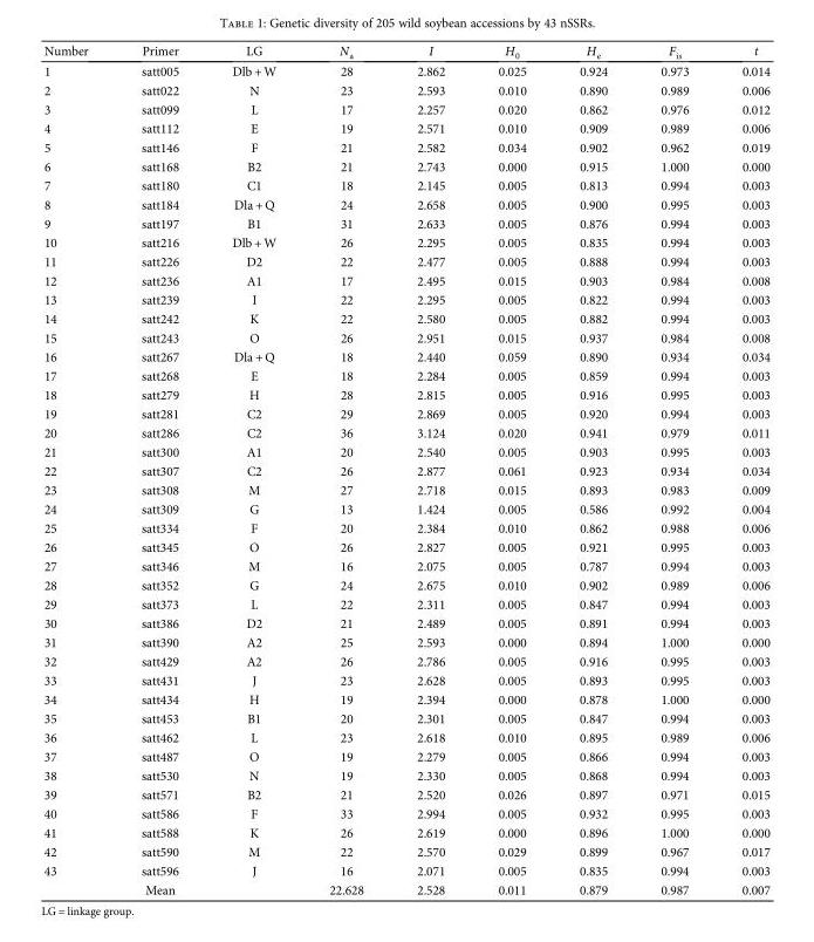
<table><thead><tr><td>Number</td><td>Primer</td><td>LG</td><td>N<sub>a</sub></td><td>I</td><td>H<sub>0</sub></td><td>H<sub>e</sub></td><td>F<sub>is</sub></td><td>t</td></tr></thead><tbody><tr><td>1</td><td>satt005</td><td>Dlb + W</td><td>28</td><td>2.862</td><td>0.025</td><td>0.924</td><td>0.973</td><td>0.014</td></tr><tr><td>2</td><td>satt022</td><td>N</td><td>23</td><td>2.593</td><td>0.010</td><td>0.890</td><td>0.989</td><td>0.006</td></tr><tr><td>3</td><td>satt099</td><td>L</td><td>17</td><td>2.257</td><td>0.020</td><td>0.862</td><td>0.976</td><td>0.012</td></tr><tr><td>4</td><td>satt112</td><td>E</td><td>19</td><td>2.571</td><td>0.010</td><td>0.909</td><td>0.989</td><td>0.006</td></tr><tr><td>5</td><td>satt146</td><td>F</td><td>21</td><td>2.582</td><td>0.034</td><td>0.902</td><td>0.962</td><td>0.019</td></tr><tr><td>6</td><td>satt168</td><td>B2</td><td>21</td><td>2.743</td><td>0.000</td><td>0.915</td><td>1.000</td><td>0.000</td></tr><tr><td>7</td><td>satt180</td><td>C1</td><td>18</td><td>2.145</td><td>0.005</td><td>0.813</td><td>0.994</td><td>0.003</td></tr><tr><td>8</td><td>satt184</td><td>Dla + Q</td><td>24</td><td>2.658</td><td>0.005</td><td>0.900</td><td>0.995</td><td>0.003</td></tr><tr><td>9</td><td>satt197</td><td>B1</td><td>31</td><td>2.633</td><td>0.005</td><td>0.876</td><td>0.994</td><td>0.003</td></tr><tr><td>10</td><td>satt216</td><td>Dlb + W</td><td>26</td><td>2.295</td><td>0.005</td><td>0.835</td><td>0.994</td><td>0.003</td></tr><tr><td>11</td><td>satt226</td><td>D2</td><td>22</td><td>2.477</td><td>0.005</td><td>0.888</td><td>0.994</td><td>0.003</td></tr><tr><td>12</td><td>satt236</td><td>A1</td><td>17</td><td>2.495</td><td>0.015</td><td>0.903</td><td>0.984</td><td>0.008</td></tr><tr><td>13</td><td>satt239</td><td>I</td><td>22</td><td>2.295</td><td>0.005</td><td>0.822</td><td>0.994</td><td>0.003</td></tr><tr><td>14</td><td>satt242</td><td>K</td><td>22</td><td>2.580</td><td>0.005</td><td>0.882</td><td>0.994</td><td>0.003</td></tr><tr><td>15</td><td>satt243</td><td>O</td><td>26</td><td>2.951</td><td>0.015</td><td>0.937</td><td>0.984</td><td>0.008</td></tr><tr><td>16</td><td>satt267</td><td>Dla + Q</td><td>18</td><td>2.440</td><td>0.059</td><td>0.890</td><td>0.934</td><td>0.034</td></tr><tr><td>17</td><td>satt268</td><td>E</td><td>18</td><td>2.284</td><td>0.005</td><td>0.859</td><td>0.994</td><td>0.003</td></tr><tr><td>18</td><td>satt279</td><td>H</td><td>28</td><td>2.815</td><td>0.005</td><td>0.916</td><td>0.995</td><td>0.003</td></tr><tr><td>19</td><td>satt281</td><td>C2</td><td>29</td><td>2.869</td><td>0.005</td><td>0.920</td><td>0.994</td><td>0.003</td></tr><tr><td>20</td><td>satt286</td><td>C2</td><td>36</td><td>3.124</td><td>0.020</td><td>0.941</td><td>0.979</td><td>0.011</td></tr><tr><td>21</td><td>satt300</td><td>A1</td><td>20</td><td>2.540</td><td>0.005</td><td>0.903</td><td>0.995</td><td>0.003</td></tr><tr><td>22</td><td>satt307</td><td>C2</td><td>26</td><td>2.877</td><td>0.061</td><td>0.923</td><td>0.934</td><td>0.034</td></tr><tr><td>23</td><td>satt308</td><td>M</td><td>27</td><td>2.718</td><td>0.015</td><td>0.893</td><td>0.983</td><td>0.009</td></tr><tr><td>24</td><td>satt309</td><td>G</td><td>13</td><td>1.424</td><td>0.005</td><td>0.586</td><td>0.992</td><td>0.004</td></tr><tr><td>25</td><td>satt334</td><td>F</td><td>20</td><td>2.384</td><td>0.010</td><td>0.862</td><td>0.988</td><td>0.006</td></tr><tr><td>26</td><td>satt345</td><td>O</td><td>26</td><td>2.827</td><td>0.005</td><td>0.921</td><td>0.995</td><td>0.003</td></tr><tr><td>27</td><td>satt346</td><td>M</td><td>16</td><td>2.075</td><td>0.005</td><td>0.787</td><td>0.994</td><td>0.003</td></tr><tr><td>28</td><td>satt352</td><td>G</td><td>24</td><td>2.675</td><td>0.010</td><td>0.902</td><td>0.989</td><td>0.006</td></tr><tr><td>29</td><td>satt373</td><td>L</td><td>22</td><td>2.311</td><td>0.005</td><td>0.847</td><td>0.994</td><td>0.003</td></tr><tr><td>30</td><td>satt386</td><td>D2</td><td>21</td><td>2.489</td><td>0.005</td><td>0.891</td><td>0.994</td><td>0.003</td></tr><tr><td>31</td><td>satt390</td><td>A2</td><td>25</td><td>2.593</td><td>0.000</td><td>0.894</td><td>1.000</td><td>0.000</td></tr><tr><td>32</td><td>satt429</td><td>A2</td><td>26</td><td>2.786</td><td>0.005</td><td>0.916</td><td>0.995</td><td>0.003</td></tr><tr><td>33</td><td>satt431</td><td>J</td><td>23</td><td>2.628</td><td>0.005</td><td>0.893</td><td>0.995</td><td>0.003</td></tr><tr><td>34</td><td>satt434</td><td>H</td><td>19</td><td>2.394</td><td>0.000</td><td>0.878</td><td>1.000</td><td>0.000</td></tr><tr><td>35</td><td>satt453</td><td>B1</td><td>20</td><td>2.301</td><td>0.005</td><td>0.847</td><td>0.994</td><td>0.003</td></tr><tr><td>36</td><td>satt462</td><td>L</td><td>23</td><td>2.618</td><td>0.010</td><td>0.895</td><td>0.989</td><td>0.006</td></tr><tr><td>37</td><td>satt487</td><td>O</td><td>19</td><td>2.279</td><td>0.005</td><td>0.866</td><td>0.994</td><td>0.003</td></tr><tr><td>38</td><td>satt530</td><td>N</td><td>19</td><td>2.330</td><td>0.005</td><td>0.868</td><td>0.994</td><td>0.003</td></tr><tr><td>39</td><td>satt571</td><td>B2</td><td>21</td><td>2.520</td><td>0.026</td><td>0.897</td><td>0.971</td><td>0.015</td></tr><tr><td>40</td><td>satt586</td><td>F</td><td>33</td><td>2.994</td><td>0.005</td><td>0.932</td><td>0.995</td><td>0.003</td></tr><tr><td>41</td><td>satt588</td><td>K</td><td>26</td><td>2.619</td><td>0.000</td><td>0.896</td><td>1.000</td><td>0.000</td></tr><tr><td>42</td><td>satt590</td><td>M</td><td>22</td><td>2.570</td><td>0.029</td><td>0.899</td><td>0.967</td><td>0.017</td></tr><tr><td rowspan="2">43</td><td>satt596</td><td>J</td><td>16</td><td>2.071</td><td>0.005</td><td>0.835</td><td>0.994</td><td>0.003</td></tr><tr><td>Mean</td><td></td><td>22.628</td><td>2.528</td><td>0.011</td><td>0.879</td><td>0.987</td><td>0.007</td></tr></tbody></table>